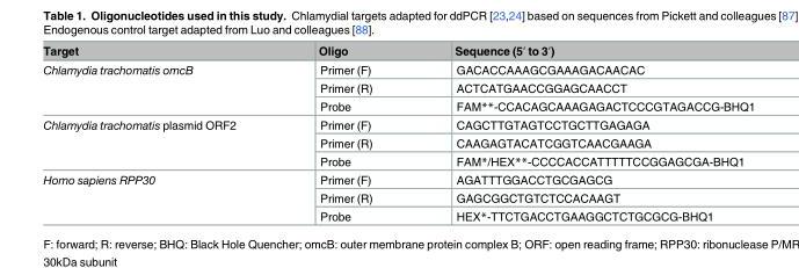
<table><thead><tr><td>Target</td><td>Oligo</td><td>Sequence (5ʹ to 3ʹ)</td></tr></thead><tbody><tr><td rowspan="3">Chlamydia trachomatis omcB</td><td>Primer (F)</td><td>GACACCAAAGCGAAAGACAACAC</td></tr><tr><td>Primer (R)</td><td>ACTCATGAACCGGAGCAACCT</td></tr><tr><td>Probe</td><td>FAM**-CCACAGCAAAGAGACTCCCGTAGACCG-BHQ1</td></tr><tr><td rowspan="3">Chlamydia trachomatis plasmid ORF2</td><td>Primer (F)</td><td>CAGCTTGTAGTCCTGCTTGAGAGA</td></tr><tr><td>Primer (R)</td><td>CAAGAGTACATCGGTCAACGAAGA</td></tr><tr><td>Probe</td><td>FAM*/HEX**-CCCCACCATTTTTCCGGAGCGA-BHQ1</td></tr><tr><td rowspan="3">Homo sapiens RPP30</td><td>Primer (F)</td><td>AGATTTGGACCTGCGAGCG</td></tr><tr><td>Primer (R)</td><td>GAGCGGCTGTCTCCACAAGT</td></tr><tr><td>Probe</td><td>HEX*-TTCTGACCTGAAGGCTCTGCGCG-BHQ1</td></tr></tbody></table>